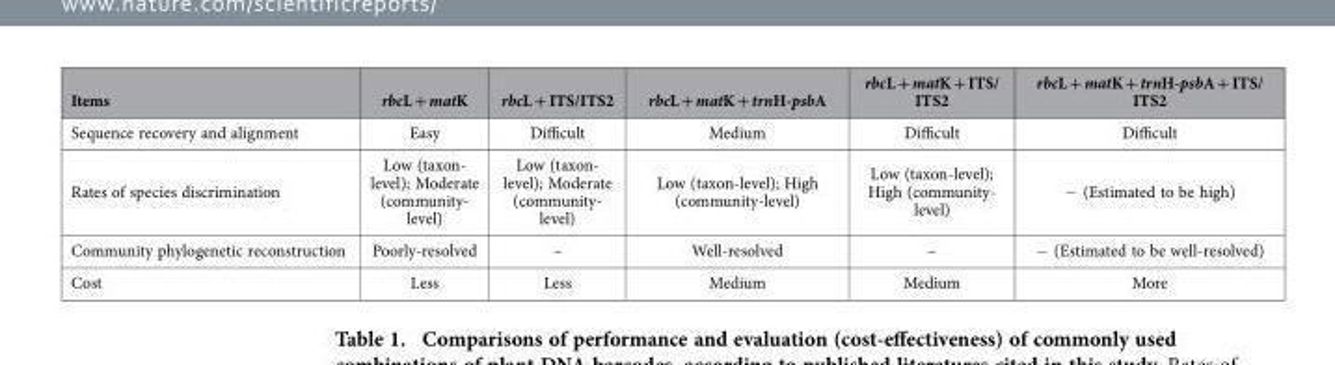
<table><thead><tr><td>Items</td><td>rbcL + matK</td><td>rbcL + ITS/ITS2</td><td>rbcL + matK + trnH-psbA</td><td>rbcL + matK + ITS/ ITS2</td><td>rbcL + matK + trnH-psbA + ITS/ ITS2</td></tr></thead><tbody><tr><td>Sequence recovery and alignment</td><td>Easy</td><td>Difficult</td><td>Medium</td><td>Difficult</td><td>Difficult</td></tr><tr><td>Rates of species discrimination</td><td>Low (taxon- level); Moderate (community- level)</td><td>Low (taxon- level); Moderate (community- level)</td><td>Low (taxon-level); High (community-level)</td><td>Low (taxon-level); High (community- level)</td><td>− (Estimated to be high)</td></tr><tr><td>Community phylogenetic reconstruction</td><td>Poorly-resolved</td><td>–</td><td>Well-resolved</td><td>–</td><td>− (Estimated to be well-resolved)</td></tr><tr><td>Cost</td><td>Less</td><td>Less</td><td>Medium</td><td>Medium</td><td>More</td></tr></tbody></table>